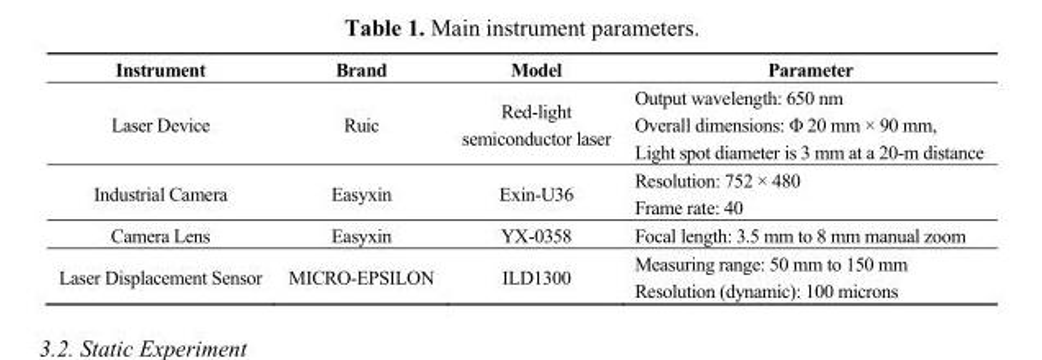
<table><thead><tr><td>Instrument</td><td>Brand</td><td>Model</td><td>Parameter</td></tr></thead><tbody><tr><td>Laser Device</td><td>Ruic</td><td>Red-light semiconductor laser</td><td>Output wavelength: 650 nm Overall dimensions: Φ 20 mm × 90 mm, Light spot diameter is 3 mm at a 20-m distance</td></tr><tr><td>Industrial Camera</td><td>Easyxin</td><td>Exin-U36</td><td>Resolution: 752 × 480 Frame rate: 40</td></tr><tr><td>Camera Lens</td><td>Easyxin</td><td>YX-0358</td><td>Focal length: 3.5 mm to 8 mm manual zoom</td></tr><tr><td>Laser Displacement Sensor</td><td>MICRO-EPSILON</td><td>ILD1300</td><td>Measuring range: 50 mm to 150 mm Resolution (dynamic): 100 microns</td></tr></tbody></table>